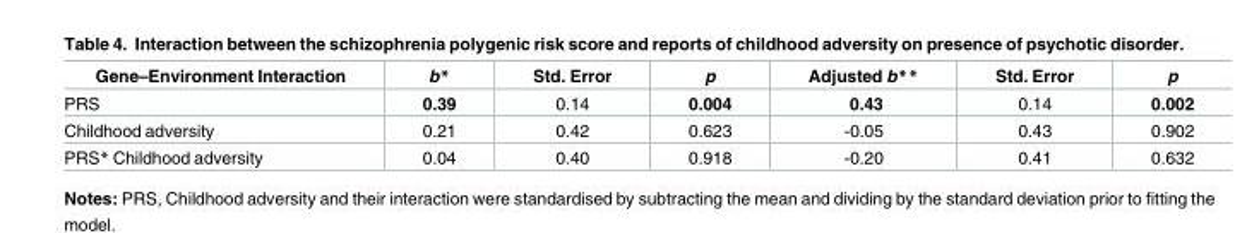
<table><thead><tr><td>Gene–Environment Interaction</td><td>b*</td><td>Std. Error</td><td>p</td><td>Adjusted b**</td><td>Std. Error</td><td>p</td></tr></thead><tbody><tr><td>PRS</td><td>0.39</td><td>0.14</td><td>0.004</td><td>0.43</td><td>0.14</td><td>0.002</td></tr><tr><td>Childhood adversity</td><td>0.21</td><td>0.42</td><td>0.623</td><td>-0.05</td><td>0.43</td><td>0.902</td></tr><tr><td>PRS* Childhood adversity</td><td>0.04</td><td>0.40</td><td>0.918</td><td>-0.20</td><td>0.41</td><td>0.632</td></tr></tbody></table>